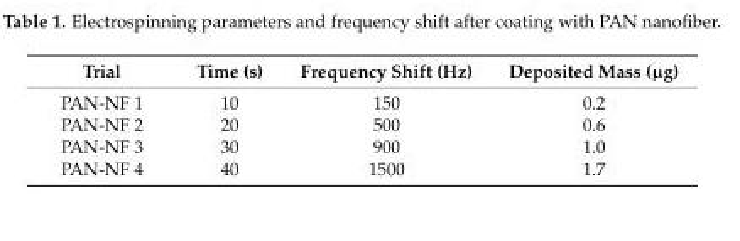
<table><thead><tr><td>Trial</td><td>Time (s)</td><td>Frequency Shift (Hz)</td><td>Deposited Mass (µg)</td></tr></thead><tbody><tr><td>PAN-NF 1</td><td>10</td><td>150</td><td>0.2</td></tr><tr><td>PAN-NF 2</td><td>20</td><td>500</td><td>0.6</td></tr><tr><td>PAN-NF 3</td><td>30</td><td>900</td><td>1.0</td></tr><tr><td>PAN-NF 4</td><td>40</td><td>1500</td><td>1.7</td></tr></tbody></table>